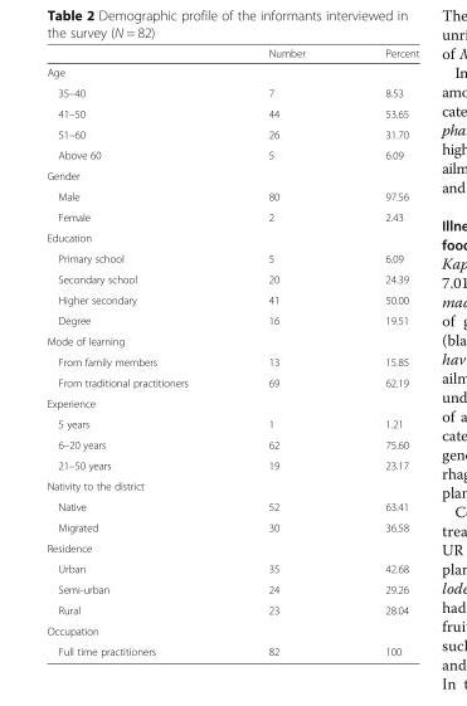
<table><thead><tr><td></td><td>Number</td><td>Percent</td></tr></thead><tbody><tr><td colspan="3">Age</td></tr><tr><td>35–40</td><td>7</td><td>8.53</td></tr><tr><td>41–50</td><td>44</td><td>53.65</td></tr><tr><td>51–60</td><td>26</td><td>31.70</td></tr><tr><td>Above 60</td><td>5</td><td>6.09</td></tr><tr><td colspan="3">Gender</td></tr><tr><td>Male</td><td>80</td><td>97.56</td></tr><tr><td>Female</td><td>2</td><td>2.43</td></tr><tr><td colspan="3">Education</td></tr><tr><td>Primary school</td><td>5</td><td>6.09</td></tr><tr><td>Secondary school</td><td>20</td><td>24.39</td></tr><tr><td>Higher secondary</td><td>41</td><td>50.00</td></tr><tr><td>Degree</td><td>16</td><td>19.51</td></tr><tr><td colspan="3">Mode of learning</td></tr><tr><td>From family members</td><td>13</td><td>15.85</td></tr><tr><td>From traditional practitioners</td><td>69</td><td>62.19</td></tr><tr><td colspan="3">Experience</td></tr><tr><td>5 years</td><td>1</td><td>1.21</td></tr><tr><td>6–20 years</td><td>62</td><td>75.60</td></tr><tr><td>21–50 years</td><td>19</td><td>23.17</td></tr><tr><td colspan="3">Nativity to the district</td></tr><tr><td>Native</td><td>52</td><td>63.41</td></tr><tr><td>Migrated</td><td>30</td><td>36.58</td></tr><tr><td colspan="3">Residence</td></tr><tr><td>Urban</td><td>35</td><td>42.68</td></tr><tr><td>Semi-urban</td><td>24</td><td>29.26</td></tr><tr><td>Rural</td><td>23</td><td>28.04</td></tr><tr><td colspan="3">Occupation</td></tr><tr><td>Full time practitioners</td><td>82</td><td>100</td></tr></tbody></table>